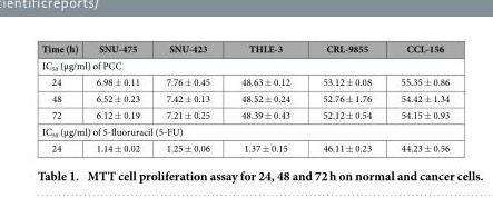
<table><thead><tr><td>Time (h)</td><td>SNU-475</td><td>SNU-423</td><td>THLE-3</td><td>CRL-9855</td><td>CCL-156</td></tr></thead><tbody><tr><td colspan="6">IC50 (μg/ml) of PCC</td></tr><tr><td>24</td><td>6.98 ± 0.11</td><td>7.76 ± 0.45</td><td>48.63 ± 0.12</td><td>53.12 ± 0.08</td><td>55.35 ± 0.86</td></tr><tr><td>48</td><td>6.52 ± 0.23</td><td>7.42 ± 0.13</td><td>48.52 ± 0.24</td><td>52.76 ± 1.76</td><td>54.42 ± 1.34</td></tr><tr><td>72</td><td>6.12 ± 0.19</td><td>7.21 ± 0.25</td><td>48.39 ± 0.43</td><td>52.12 ± 0.54</td><td>54.15 ± 0.93</td></tr><tr><td colspan="6">IC50 (μg/ml) of 5-fluoruracil (5-FU)</td></tr><tr><td>24</td><td>1.14 ± 0.02</td><td>1.25 ± 0.06</td><td>1.37 ± 0.15</td><td>46.11 ± 0.23</td><td>44.23 ± 0.56</td></tr></tbody></table>